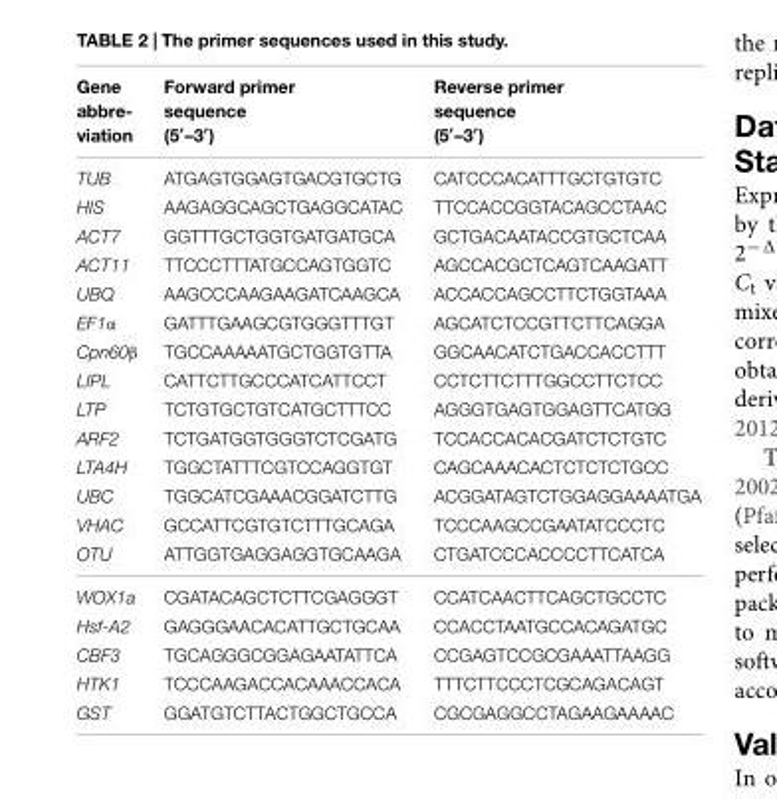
<table><thead><tr><td>Gene abbre- viation</td><td>Forward primer sequence (5′–3′)</td><td>Reverse primer sequence (5′–3′)</td></tr></thead><tbody><tr><td>TUB</td><td>ATGAGTGGAGTGACGTGCTG</td><td>CATCCCACATTTGCTGTGTC</td></tr><tr><td>HIS</td><td>AAGAGGCAGCTGAGGCATAC</td><td>TTCCACCGGTACAGCCTAAC</td></tr><tr><td>ACT7</td><td>GGTTTGCTGGTGATGATGCA</td><td>GCTGACAATACCGTGCTCAA</td></tr><tr><td>ACT11</td><td>TTCCCTTTATGCCAGTGGTC</td><td>AGCCACGCTCAGTCAAGATT</td></tr><tr><td>UBQ</td><td>AAGCCCAAGAAGATCAAGCA</td><td>ACCACCAGCCTTCTGGTAAA</td></tr><tr><td>EF1α</td><td>GATTTGAAGCGTGGGTTTGT</td><td>AGCATCTCCGTTCTTCAGGA</td></tr><tr><td>Cpn60β</td><td>TGCCAAAAATGCTGGTGTTA</td><td>GGCAACATCTGACCACCTTT</td></tr><tr><td>LIPL</td><td>CATTCTTGCCCATCATTCCT</td><td>CCTCTTCTTTGGCCTTCTCC</td></tr><tr><td>LTP</td><td>TCTGTGCTGTCATGCTTTCC</td><td>AGGGTGAGTGGAGTTCATGG</td></tr><tr><td>ARF2</td><td>TCTGATGGTGGGTCTCGATG</td><td>TCCACCACACGATCTCTGTC</td></tr><tr><td>LTA4H</td><td>TGGCTATTTCGTCCAGGTGT</td><td>CAGCAAACACTCTCTCTGCC</td></tr><tr><td>UBC</td><td>TGGCATCGAAACGGATCTTG</td><td>ACGGATAGTCTGGAGGAAAATGA</td></tr><tr><td>VHAC</td><td>GCCATTCGTGTCTTTGCAGA</td><td>TCCCAAGCCGAATATCCCTC</td></tr><tr><td>OTU</td><td>ATTGGTGAGGAGGTGCAAGA</td><td>CTGATCCCACCCCTTCATCA</td></tr><tr><td>WOX1a</td><td>CGATACAGCTCTTCGAGGGT</td><td>CCATCAACTTCAGCTGCCTC</td></tr><tr><td>Hsf-A2</td><td>GAGGGAACACATTGCTGCAA</td><td>CCACCTAATGCCACAGATGC</td></tr><tr><td>CBF3</td><td>TGCAGGGCGGAGAATATTCA</td><td>CCGAGTCCGCGAAATTAAGG</td></tr><tr><td>HTK1</td><td>TCCCAAGACCACAAACCACA</td><td>TTTCTTCCCTCGCAGACAGT</td></tr><tr><td>GST</td><td>GGATGTCTTACTGGCTGCCA</td><td>CGCGAGGCCTAGAAGAAAAC</td></tr></tbody></table>